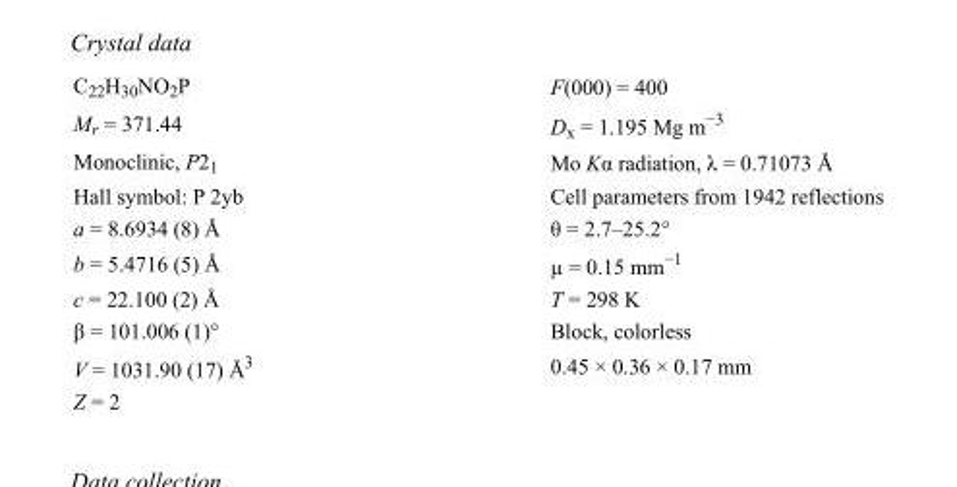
<table><tbody><tr><td>C<sub>22</sub>H<sub>30</sub>NO<sub>2</sub>P</td><td>F(000) = 400</td></tr><tr><td>M<sub>r</sub> = 371.44</td><td>D<sub>x</sub> = 1.195 Mg m<sup>−3</sup></td></tr><tr><td>Monoclinic, P2<sub>1</sub></td><td>Mo Kα radiation, λ = 0.71073 Å</td></tr><tr><td>Hall symbol: P 2yb</td><td>Cell parameters from 1942 reflections</td></tr><tr><td>a = 8.6934 (8) Å</td><td>θ = 2.7–25.2°</td></tr><tr><td>b = 5.4716 (5) Å</td><td>µ = 0.15 mm<sup>−1</sup></td></tr><tr><td>c = 22.100 (2) Å</td><td>T = 298 K</td></tr><tr><td>β = 101.006 (1)°</td><td>Block, colorless</td></tr><tr><td>V = 1031.90 (17) Å<sup>3</sup></td><td>0.45 × 0.36 × 0.17 mm</td></tr><tr><td>Z = 2</td><td></td></tr></tbody></table>